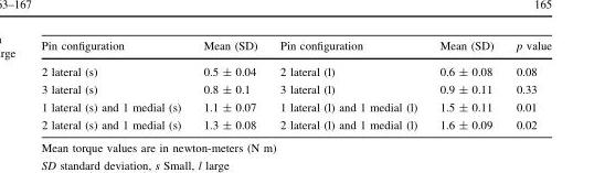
<table><thead><tr><td>Pin configuration</td><td>Mean (SD)</td><td>Pin configuration</td><td>Mean (SD)</td><td>p value</td></tr></thead><tbody><tr><td>2 lateral (s)</td><td>0.5 ± 0.04</td><td>2 lateral (l)</td><td>0.6 ± 0.08</td><td>0.08</td></tr><tr><td>3 lateral (s)</td><td>0.8 ± 0.1</td><td>3 lateral (l)</td><td>0.9 ± 0.11</td><td>0.33</td></tr><tr><td>1 lateral (s) and 1 medial (s)</td><td>1.1 ± 0.07</td><td>1 lateral (l) and 1 medial (l)</td><td>1.5 ± 0.11</td><td>0.01</td></tr><tr><td>2 lateral (s) and 1 medial (s)</td><td>1.3 ± 0.08</td><td>2 lateral (l) and 1 medial (l)</td><td>1.6 ± 0.09</td><td>0.02</td></tr></tbody></table>